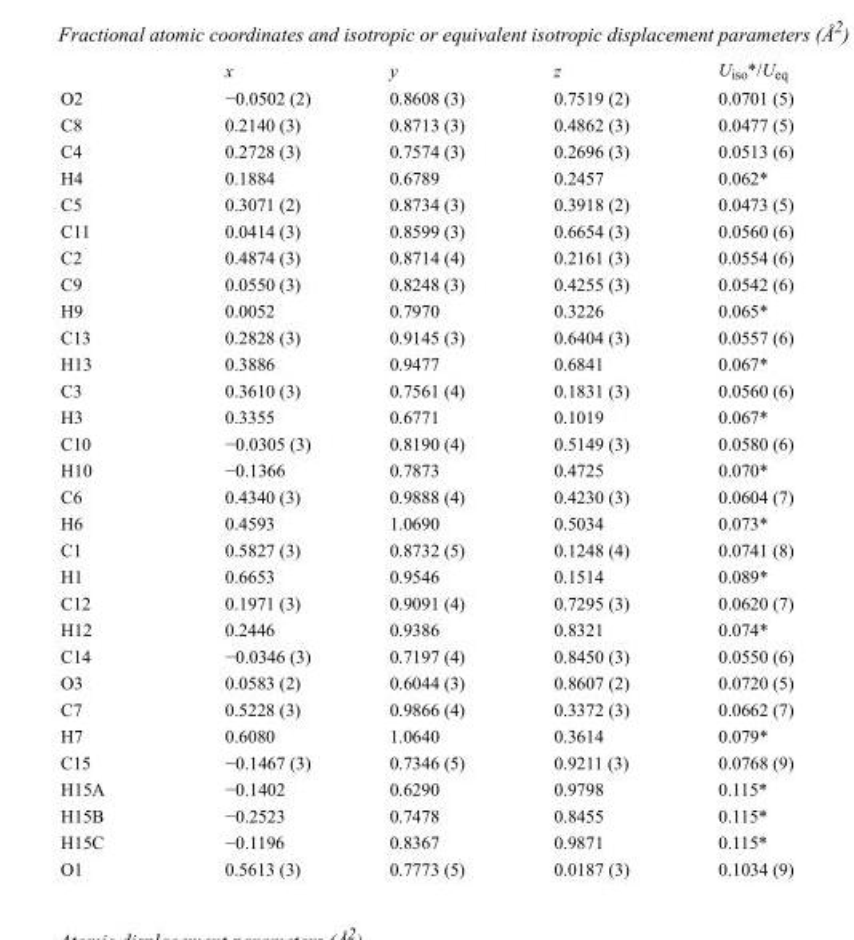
<table><thead><tr><td></td><td>x</td><td>y</td><td>z</td><td>U<sub>iso</sub>*/U<sub>eq</sub></td></tr></thead><tbody><tr><td>O2</td><td>−0.0502 (2)</td><td>0.8608 (3)</td><td>0.7519 (2)</td><td>0.0701 (5)</td></tr><tr><td>C8</td><td>0.2140 (3)</td><td>0.8713 (3)</td><td>0.4862 (3)</td><td>0.0477 (5)</td></tr><tr><td>C4</td><td>0.2728 (3)</td><td>0.7574 (3)</td><td>0.2696 (3)</td><td>0.0513 (6)</td></tr><tr><td>H4</td><td>0.1884</td><td>0.6789</td><td>0.2457</td><td>0.062*</td></tr><tr><td>C5</td><td>0.3071 (2)</td><td>0.8734 (3)</td><td>0.3918 (2)</td><td>0.0473 (5)</td></tr><tr><td>C11</td><td>0.0414 (3)</td><td>0.8599 (3)</td><td>0.6654 (3)</td><td>0.0560 (6)</td></tr><tr><td>C2</td><td>0.4874 (3)</td><td>0.8714 (4)</td><td>0.2161 (3)</td><td>0.0554 (6)</td></tr><tr><td>C9</td><td>0.0550 (3)</td><td>0.8248 (3)</td><td>0.4255 (3)</td><td>0.0542 (6)</td></tr><tr><td>H9</td><td>0.0052</td><td>0.7970</td><td>0.3226</td><td>0.065*</td></tr><tr><td>C13</td><td>0.2828 (3)</td><td>0.9145 (3)</td><td>0.6404 (3)</td><td>0.0557 (6)</td></tr><tr><td>H13</td><td>0.3886</td><td>0.9477</td><td>0.6841</td><td>0.067*</td></tr><tr><td>C3</td><td>0.3610 (3)</td><td>0.7561 (4)</td><td>0.1831 (3)</td><td>0.0560 (6)</td></tr><tr><td>H3</td><td>0.3355</td><td>0.6771</td><td>0.1019</td><td>0.067*</td></tr><tr><td>C10</td><td>−0.0305 (3)</td><td>0.8190 (4)</td><td>0.5149 (3)</td><td>0.0580 (6)</td></tr><tr><td>H10</td><td>−0.1366</td><td>0.7873</td><td>0.4725</td><td>0.070*</td></tr><tr><td>C6</td><td>0.4340 (3)</td><td>0.9888 (4)</td><td>0.4230 (3)</td><td>0.0604 (7)</td></tr><tr><td>H6</td><td>0.4593</td><td>1.0690</td><td>0.5034</td><td>0.073*</td></tr><tr><td>C1</td><td>0.5827 (3)</td><td>0.8732 (5)</td><td>0.1248 (4)</td><td>0.0741 (8)</td></tr><tr><td>H1</td><td>0.6653</td><td>0.9546</td><td>0.1514</td><td>0.089*</td></tr><tr><td>C12</td><td>0.1971 (3)</td><td>0.9091 (4)</td><td>0.7295 (3)</td><td>0.0620 (7)</td></tr><tr><td>H12</td><td>0.2446</td><td>0.9386</td><td>0.8321</td><td>0.074*</td></tr><tr><td>C14</td><td>−0.0346 (3)</td><td>0.7197 (4)</td><td>0.8450 (3)</td><td>0.0550 (6)</td></tr><tr><td>O3</td><td>0.0583 (2)</td><td>0.6044 (3)</td><td>0.8607 (2)</td><td>0.0720 (5)</td></tr><tr><td>C7</td><td>0.5228 (3)</td><td>0.9866 (4)</td><td>0.3372 (3)</td><td>0.0662 (7)</td></tr><tr><td>H7</td><td>0.6080</td><td>1.0640</td><td>0.3614</td><td>0.079*</td></tr><tr><td>C15</td><td>−0.1467 (3)</td><td>0.7346 (5)</td><td>0.9211 (3)</td><td>0.0768 (9)</td></tr><tr><td>H15A</td><td>−0.1402</td><td>0.6290</td><td>0.9798</td><td>0.115*</td></tr><tr><td>H15B</td><td>−0.2523</td><td>0.7478</td><td>0.8455</td><td>0.115*</td></tr><tr><td>H15C</td><td>−0.1196</td><td>0.8367</td><td>0.9871</td><td>0.115*</td></tr><tr><td>O1</td><td>0.5613 (3)</td><td>0.7773 (5)</td><td>0.0187 (3)</td><td>0.1034 (9)</td></tr></tbody></table>